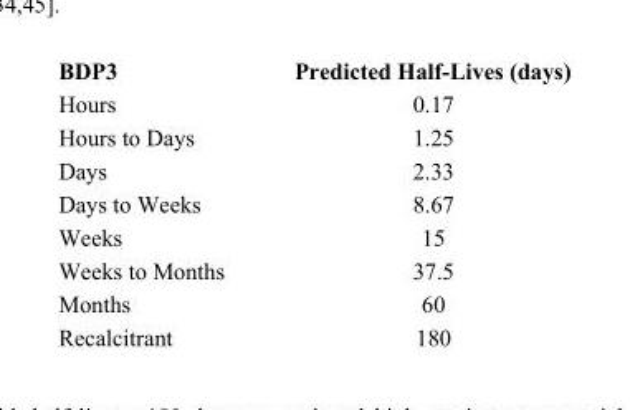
<table><thead><tr><td>BDP3</td><td>Predicted Half-Lives (days)</td></tr></thead><tbody><tr><td>Hours</td><td>0.17</td></tr><tr><td>Hours to Days</td><td>1.25</td></tr><tr><td>Days</td><td>2.33</td></tr><tr><td>Days to Weeks</td><td>8.67</td></tr><tr><td>Weeks</td><td>15</td></tr><tr><td>Weeks to Months</td><td>37.5</td></tr><tr><td>Months</td><td>60</td></tr><tr><td>Recalcitrant</td><td>180</td></tr></tbody></table>